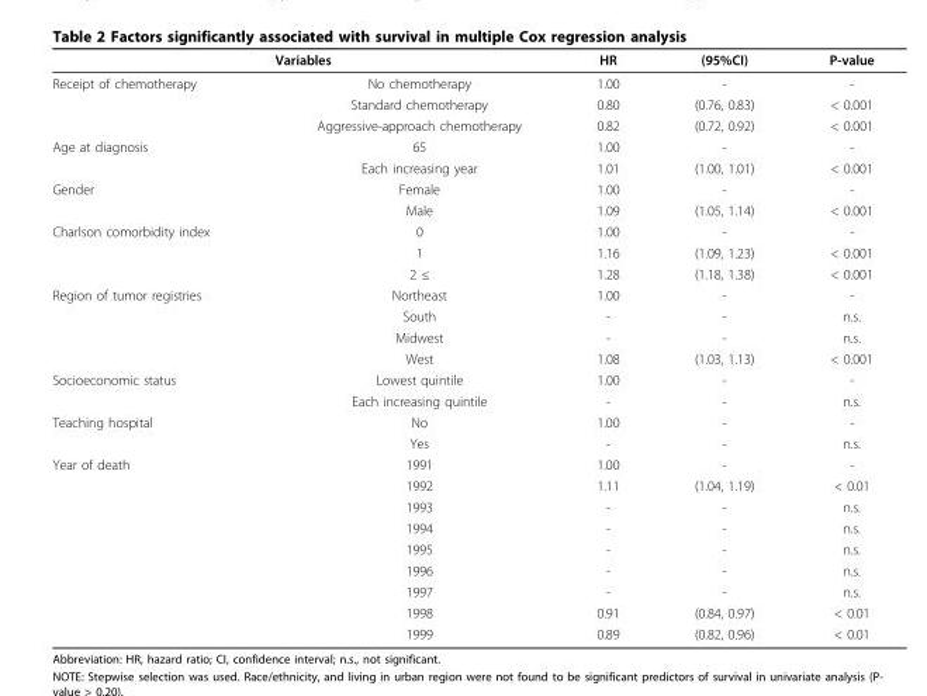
<table><thead><tr><td colspan="2">Variables</td><td rowspan="2">HR 1.00</td><td rowspan="2">(95%CI) -</td><td rowspan="2">P-value -</td></tr><tr><td>Receipt of chemotherapy</td><td>No chemotherapy</td></tr></thead><tbody><tr><td></td><td>Standard chemotherapy</td><td>0.80</td><td>(0.76, 0.83)</td><td>&lt; 0.001</td></tr><tr><td></td><td>Aggressive-approach chemotherapy</td><td>0.82</td><td>(0.72, 0.92)</td><td>&lt; 0.001</td></tr><tr><td rowspan="2">Age at diagnosis</td><td>65</td><td>1.00</td><td>-</td><td>-</td></tr><tr><td>Each increasing year</td><td>1.01</td><td>(1.00, 1.01)</td><td>&lt; 0.001</td></tr><tr><td rowspan="2">Gender</td><td>Female</td><td>1.00</td><td>-</td><td>-</td></tr><tr><td>Male</td><td>1.09</td><td>(1.05, 1.14)</td><td>&lt; 0.001</td></tr><tr><td rowspan="3">Charlson comorbidity index</td><td>0</td><td>1.00</td><td>-</td><td>-</td></tr><tr><td>1</td><td>1.16</td><td>(1.09, 1.23)</td><td>&lt; 0.001</td></tr><tr><td>2 ≤</td><td>1.28</td><td>(1.18, 1.38)</td><td>&lt; 0.001</td></tr><tr><td rowspan="4">Region of tumor registries</td><td>Northeast</td><td>1.00</td><td>-</td><td>-</td></tr><tr><td>South</td><td>-</td><td>-</td><td>n.s.</td></tr><tr><td>Midwest</td><td>-</td><td>-</td><td>n.s.</td></tr><tr><td>West</td><td>1.08</td><td>(1.03, 1.13)</td><td>&lt; 0.001</td></tr><tr><td rowspan="2">Socioeconomic status</td><td>Lowest quintile</td><td>1.00</td><td>-</td><td>-</td></tr><tr><td>Each increasing quintile</td><td>-</td><td>-</td><td>n.s.</td></tr><tr><td rowspan="2">Teaching hospital</td><td>No</td><td>1.00</td><td>-</td><td>-</td></tr><tr><td>Yes</td><td>-</td><td>-</td><td>n.s.</td></tr><tr><td rowspan="9">Year of death</td><td>1991</td><td>1.00</td><td>-</td><td>-</td></tr><tr><td>1992</td><td>1.11</td><td>(1.04, 1.19)</td><td>&lt; 0.01</td></tr><tr><td>1993</td><td>-</td><td>-</td><td>n.s.</td></tr><tr><td>1994</td><td>-</td><td>-</td><td>n.s.</td></tr><tr><td>1995</td><td>-</td><td>-</td><td>n.s.</td></tr><tr><td>1996</td><td>-</td><td>-</td><td>n.s.</td></tr><tr><td>1997</td><td>-</td><td>-</td><td>n.s.</td></tr><tr><td>1998</td><td>0.91</td><td>(0.84, 0.97)</td><td>&lt; 0.01</td></tr><tr><td>1999</td><td>0.89</td><td>(0.82, 0.96)</td><td>&lt; 0.01</td></tr></tbody></table>